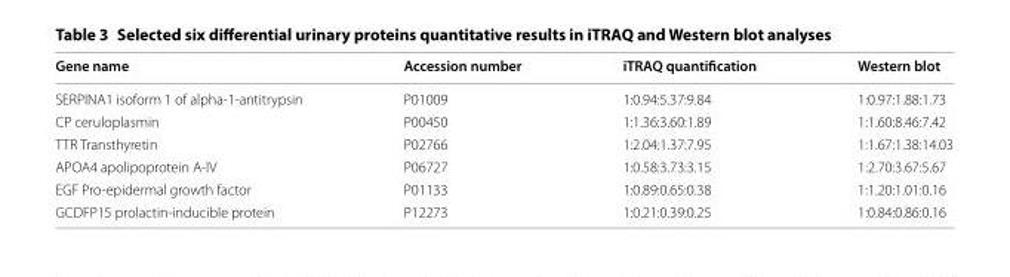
<table><thead><tr><td>Gene name</td><td>Accession number</td><td>iTRAQ quantification</td><td>Western blot</td></tr></thead><tbody><tr><td>SERPINA1 isoform 1 of alpha-1-antitrypsin</td><td>P01009</td><td>1:0.94:5.37:9.84</td><td>1:0.97:1.88:1.73</td></tr><tr><td>CP ceruloplasmin</td><td>P00450</td><td>1:1.36:3.60:1.89</td><td>1:1.60:8.46:7.42</td></tr><tr><td>TTR Transthyretin</td><td>P02766</td><td>1:2.04:1.37:7.95</td><td>1:1.67:1.38:14.03</td></tr><tr><td>APOA4 apolipoprotein A-IV</td><td>P06727</td><td>1:0.58:3.73:3.15</td><td>1:2.70:3.67:5.67</td></tr><tr><td>EGF Pro-epidermal growth factor</td><td>P01133</td><td>1:0.89:0.65:0.38</td><td>1:1.20:1.01:0.16</td></tr><tr><td>GCDFP15 prolactin-inducible protein</td><td>P12273</td><td>1:0.21:0.39:0.25</td><td>1:0.84:0.86:0.16</td></tr></tbody></table>